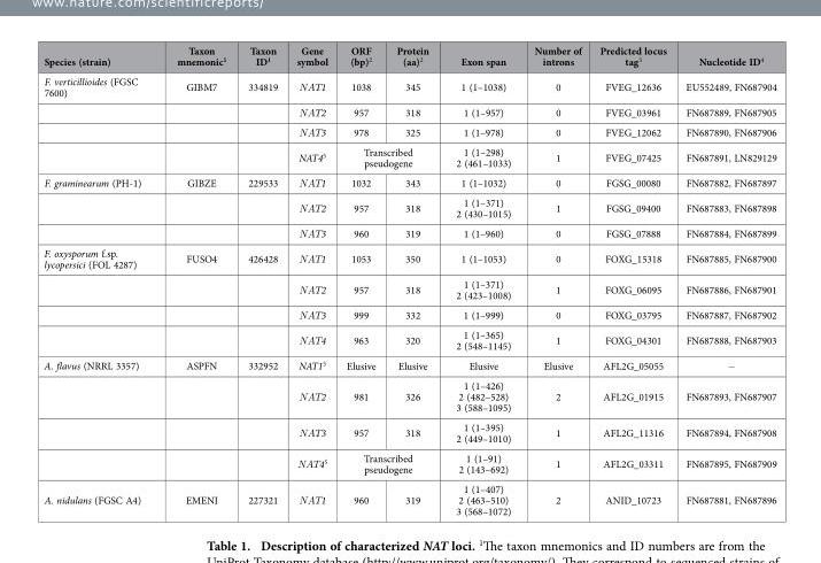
<table><thead><tr><td>Species (strain)</td><td>Taxon mnemonic<sup>1</sup></td><td>Taxon ID<sup>1</sup></td><td>Gene symbol</td><td>ORF (bp)<sup>2</sup></td><td>Protein (aa)<sup>2</sup></td><td>Exon span</td><td>Number of introns</td><td>Predicted locus tag<sup>3</sup></td><td>Nucleotide ID<sup>4</sup></td></tr></thead><tbody><tr><td rowspan="4">F. verticillioides (FGSC 7600)</td><td>GIBM7</td><td>334819</td><td>ΝΑΤ1</td><td>1038</td><td>345</td><td>1 (1–1038)</td><td>0</td><td>FVEG_12636</td><td>EU552489, FN687904</td></tr><tr><td></td><td></td><td>ΝΑΤ2</td><td>957</td><td>318</td><td>1 (1–957)</td><td>0</td><td>FVEG_03961</td><td>FN687889, FN687905</td></tr><tr><td></td><td></td><td>ΝΑΤ3</td><td>978</td><td>325</td><td>1 (1–978)</td><td>0</td><td>FVEG_12062</td><td>FN687890, FN687906</td></tr><tr><td></td><td></td><td>NAT4<sup>5</sup></td><td colspan="2">Transcribed pseudogene</td><td>1 (1–298) 2 (461–1033)</td><td>1</td><td>FVEG_07425</td><td>FN687891, LN829129</td></tr><tr><td rowspan="3">F. graminearum (PH-1)</td><td>GIBZE</td><td>229533</td><td>ΝΑΤ1</td><td>1032</td><td>343</td><td>1 (1–1032)</td><td>0</td><td>FGSG_00080</td><td>FN687882, FN687897</td></tr><tr><td></td><td></td><td>ΝΑΤ2</td><td>957</td><td>318</td><td>1 (1–371) 2 (430–1015)</td><td>1</td><td>FGSG_09400</td><td>FN687883, FN687898</td></tr><tr><td></td><td></td><td>ΝΑΤ3</td><td>960</td><td>319</td><td>1 (1–960)</td><td>0</td><td>FGSG_07888</td><td>FN687884, FN687899</td></tr><tr><td rowspan="4">F. oxysporum f.sp. lycopersici (FOL 4287)</td><td>FUSO4</td><td>426428</td><td>ΝΑΤ1</td><td>1053</td><td>350</td><td>1 (1–1053)</td><td>0</td><td>FOXG_15318</td><td>FN687885, FN687900</td></tr><tr><td></td><td></td><td>ΝΑΤ2</td><td>957</td><td>318</td><td>1 (1–371) 2 (423–1008)</td><td>1</td><td>FOXG_06095</td><td>FN687886, FN687901</td></tr><tr><td></td><td></td><td>ΝΑΤ3</td><td>999</td><td>332</td><td>1 (1–999)</td><td>0</td><td>FOXG_03795</td><td>FN687887, FN687902</td></tr><tr><td></td><td></td><td>ΝΑΤ4</td><td>963</td><td>320</td><td>1 (1–365) 2 (548–1145)</td><td>1</td><td>FOXG_04301</td><td>FN687888, FN687903</td></tr><tr><td rowspan="4">A. flavus (NRRL 3357)</td><td>ASPFN</td><td>332952</td><td>NAT1<sup>5</sup></td><td>Elusive</td><td>Elusive</td><td>Elusive</td><td>Elusive</td><td>AFL2G_05055</td><td>−</td></tr><tr><td></td><td></td><td>ΝΑΤ2</td><td>981</td><td>326</td><td>1 (1–426) 2 (482–528) 3 (588–1095)</td><td>2</td><td>AFL2G_01915</td><td>FN687893, FN687907</td></tr><tr><td></td><td></td><td>ΝΑΤ3</td><td>957</td><td>318</td><td>1 (1–395) 2 (449–1010)</td><td>1</td><td>AFL2G_11316</td><td>FN687894, FN687908</td></tr><tr><td></td><td></td><td>ΝΑΤ4<sup>5</sup></td><td colspan="2">Transcribed pseudogene</td><td>1 (1–91) 2 (143–692)</td><td>1</td><td>AFL2G_03311</td><td>FN687895, FN687909</td></tr><tr><td>A. nidulans (FGSC A4)</td><td>EMENI</td><td>227321</td><td>ΝΑΤ1</td><td>960</td><td>319</td><td>1 (1–407) 2 (463–510) 3 (568–1072)</td><td>2</td><td>ANID_10723</td><td>FN687881, FN687896</td></tr></tbody></table>